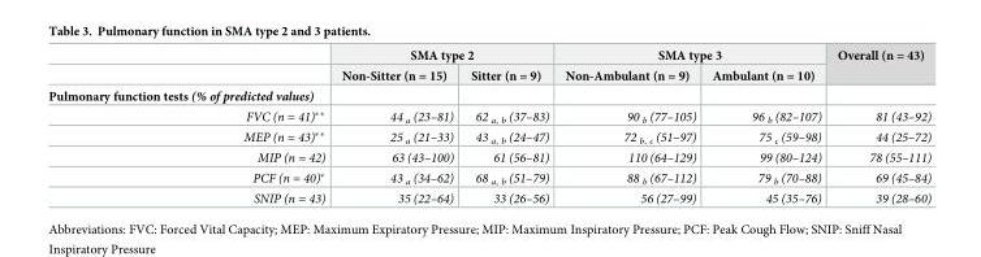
<table><thead><tr><td rowspan="2"></td><td colspan="2">SMA type 2</td><td colspan="2">SMA type 3</td><td rowspan="2">Overall (n = 43)</td></tr><tr><td>Non-Sitter (n = 15)</td><td>Sitter (n = 9)</td><td>Non-Ambulant (n = 9)</td><td>Ambulant (n = 10)</td></tr></thead><tbody><tr><td colspan="6">Pulmonary function tests (% of predicted values)</td></tr><tr><td>FVC (n = 41)**</td><td>44 <sub>a</sub> (23–81)</td><td>62 <sub>a, b</sub> (37–83)</td><td>90 <sub>b</sub> (77–105)</td><td>96 <sub>b</sub> (82–107)</td><td>81 (43–92)</td></tr><tr><td>MEP (n = 43)**</td><td>25 <sub>a</sub> (21–33)</td><td>43 <sub>a, b</sub> (24–47)</td><td>72 <sub>b, c</sub> (51–97)</td><td>75 <sub>c</sub> (59–98)</td><td>44 (25–72)</td></tr><tr><td>MIP (n = 42)</td><td>63 (43–100)</td><td>61 (56–81)</td><td>110 (64–129)</td><td>99 (80–124)</td><td>78 (55–111)</td></tr><tr><td>PCF (n = 40)*</td><td>43 <sub>a</sub> (34–62)</td><td>68 <sub>a, b</sub> (51–79)</td><td>88 <sub>b</sub> (67–112)</td><td>79 <sub>b</sub> (70–88)</td><td>69 (45–84)</td></tr><tr><td>SNIP (n = 43)</td><td>35 (22–64)</td><td>33 (26–56)</td><td>56 (27–99)</td><td>45 (35–76)</td><td>39 (28–60)</td></tr></tbody></table>